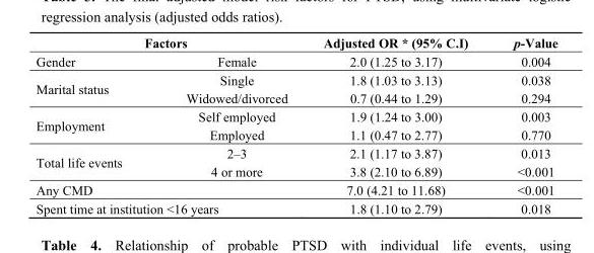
<table><thead><tr><td colspan="2">Factors</td><td rowspan="2">Adjusted OR * (95% C.I) 2.0 (1.25 to 3.17)</td><td rowspan="2">p-Value 0.004</td></tr><tr><td>Gender</td><td>Female</td></tr></thead><tbody><tr><td rowspan="2">Marital status</td><td>Single</td><td>1.8 (1.03 to 3.13)</td><td>0.038</td></tr><tr><td>Widowed/divorced</td><td>0.7 (0.44 to 1.29)</td><td>0.294</td></tr><tr><td rowspan="2">Employment</td><td>Self employed</td><td>1.9 (1.24 to 3.00)</td><td>0.003</td></tr><tr><td>Employed</td><td>1.1 (0.47 to 2.77)</td><td>0.770</td></tr><tr><td rowspan="2">Total life events</td><td>2–3</td><td>2.1 (1.17 to 3.87)</td><td>0.013</td></tr><tr><td>4 or more</td><td>3.8 (2.10 to 6.89)</td><td>&lt;0.001</td></tr><tr><td colspan="2">Any CMD</td><td>7.0 (4.21 to 11.68)</td><td>&lt;0.001</td></tr><tr><td colspan="2">Spent time at institution &lt;16 years</td><td>1.8 (1.10 to 2.79)</td><td>0.018</td></tr></tbody></table>